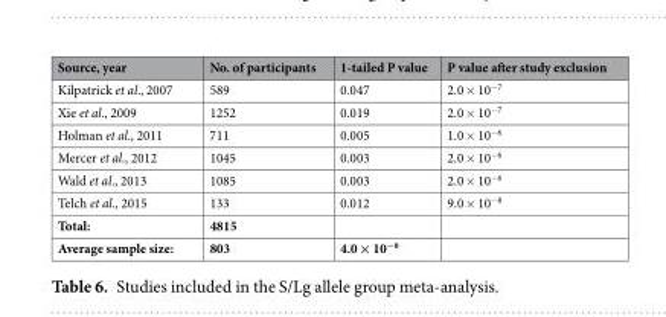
<table><thead><tr><td>Source, year</td><td>No. of participants</td><td>1-tailed P value</td><td>P value after study exclusion</td></tr></thead><tbody><tr><td>Kilpatrick et al., 2007</td><td>589</td><td>0.047</td><td>2.0 × 10<sup>−7</sup></td></tr><tr><td>Xie et al., 2009</td><td>1252</td><td>0.019</td><td>2.0 × 10<sup>−7</sup></td></tr><tr><td>Holman et al., 2011</td><td>711</td><td>0.005</td><td>1.0 × 10<sup>−6</sup></td></tr><tr><td>Mercer et al., 2012</td><td>1045</td><td>0.003</td><td>2.0 × 10<sup>−6</sup></td></tr><tr><td>Wald et al., 2013</td><td>1085</td><td>0.003</td><td>2.0 × 10<sup>−6</sup></td></tr><tr><td>Telch et al., 2015</td><td>133</td><td>0.012</td><td>9.0 × 10<sup>−8</sup></td></tr><tr><td>Total:</td><td>4815</td><td></td><td></td></tr><tr><td>Average sample size:</td><td>803</td><td>4.0 × 10<sup>−8</sup></td><td></td></tr></tbody></table>